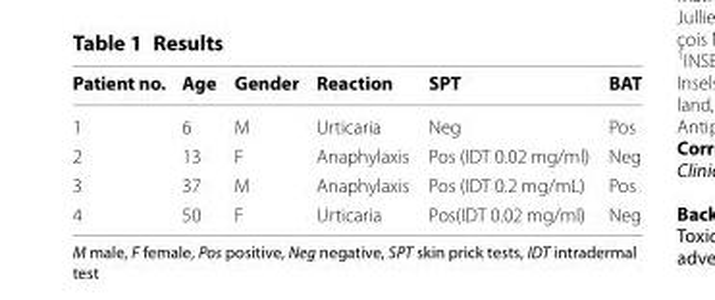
<table><thead><tr><td>Patient no.</td><td>Age</td><td>Gender</td><td>Reaction</td><td>SPT</td><td>BAT</td></tr></thead><tbody><tr><td>1</td><td>6</td><td>M</td><td>Urticaria</td><td>Neg</td><td>Pos</td></tr><tr><td>2</td><td>13</td><td>F</td><td>Anaphylaxis</td><td>Pos (IDT 0.02 mg/ml)</td><td>Neg</td></tr><tr><td>3</td><td>37</td><td>M</td><td>Anaphylaxis</td><td>Pos (IDT 0.2 mg/mL)</td><td>Pos</td></tr><tr><td>4</td><td>50</td><td>F</td><td>Urticaria</td><td>Pos(IDT 0.02 mg/ml)</td><td>Neg</td></tr></tbody></table>